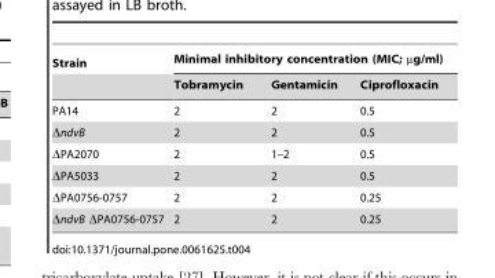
<table><thead><tr><td rowspan="2">Strain</td><td colspan="3">Minimal inhibitory concentration (MIC; µg/ml)</td></tr><tr><td>Tobramycin</td><td>Gentamicin</td><td>Ciprofloxacin</td></tr></thead><tbody><tr><td>PA14</td><td>2</td><td>2</td><td>0.5</td></tr><tr><td>ΔndvB</td><td>2</td><td>2</td><td>0.5</td></tr><tr><td>ΔPA2070</td><td>2</td><td>1–2</td><td>0.5</td></tr><tr><td>ΔPA5033</td><td>2</td><td>2</td><td>0.5</td></tr><tr><td>ΔPA0756-0757</td><td>2</td><td>2</td><td>0.25</td></tr><tr><td>ΔndvB ΔPA0756-0757</td><td>2</td><td>2</td><td>0.25</td></tr></tbody></table>